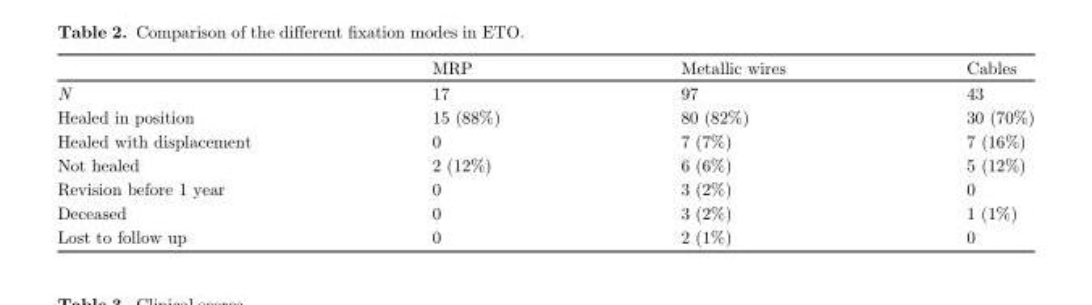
<table><thead><tr><td></td><td>MRP</td><td>Metallic wires</td><td>Cables</td></tr></thead><tbody><tr><td>N</td><td>17</td><td>97</td><td>43</td></tr><tr><td>Healed in position</td><td>15 (88%)</td><td>80 (82%)</td><td>30 (70%)</td></tr><tr><td>Healed with displacement</td><td>0</td><td>7 (7%)</td><td>7 (16%)</td></tr><tr><td>Not healed</td><td>2 (12%)</td><td>6 (6%)</td><td>5 (12%)</td></tr><tr><td>Revision before 1 year</td><td>0</td><td>3 (2%)</td><td>0</td></tr><tr><td>Deceased</td><td>0</td><td>3 (2%)</td><td>1 (1%)</td></tr><tr><td>Lost to follow up</td><td>0</td><td>2 (1%)</td><td>0</td></tr></tbody></table>